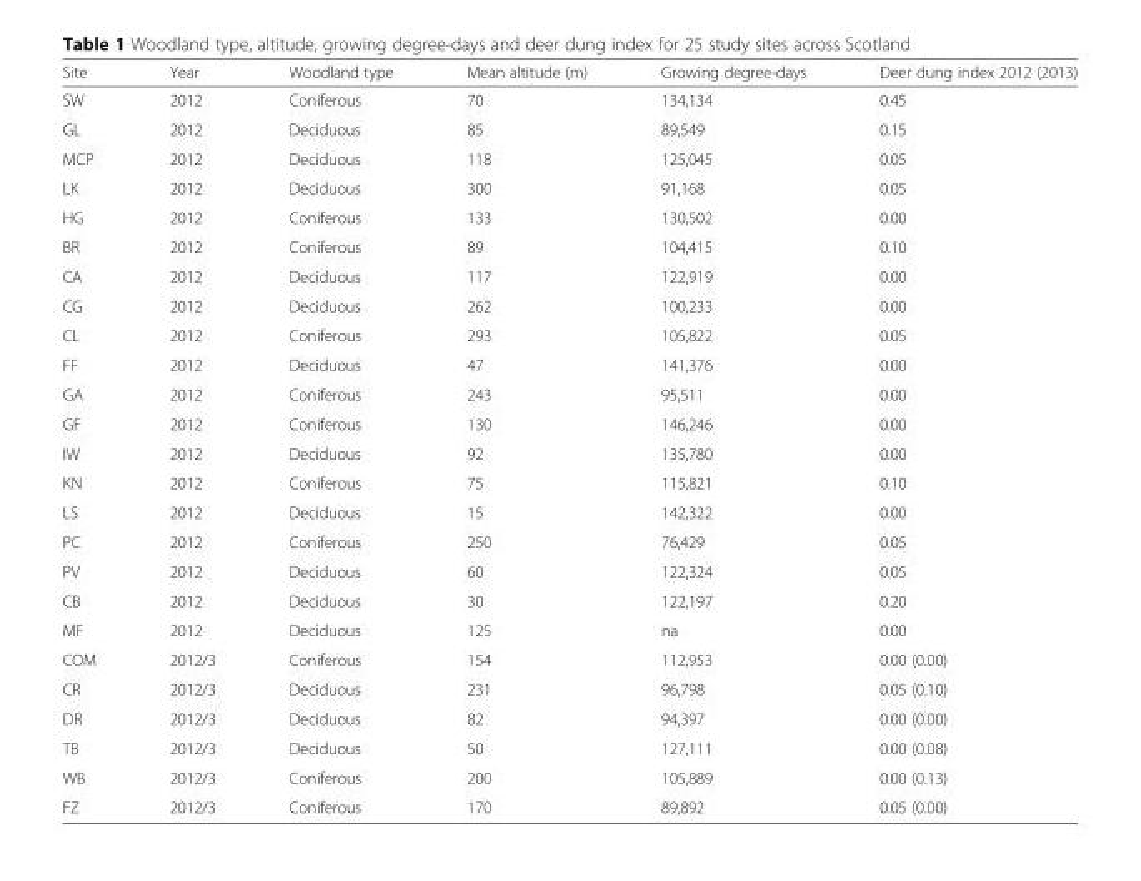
<table><thead><tr><td>Site</td><td>Year</td><td>Woodland type</td><td>Mean altitude (m)</td><td>Growing degree-days</td><td>Deer dung index 2012 (2013)</td></tr></thead><tbody><tr><td>SW</td><td>2012</td><td>Coniferous</td><td>70</td><td>134,134</td><td>0.45</td></tr><tr><td>GL</td><td>2012</td><td>Deciduous</td><td>85</td><td>89,549</td><td>0.15</td></tr><tr><td>MCP</td><td>2012</td><td>Deciduous</td><td>118</td><td>125,045</td><td>0.05</td></tr><tr><td>LK</td><td>2012</td><td>Deciduous</td><td>300</td><td>91,168</td><td>0.05</td></tr><tr><td>HG</td><td>2012</td><td>Coniferous</td><td>133</td><td>130,502</td><td>0.00</td></tr><tr><td>BR</td><td>2012</td><td>Coniferous</td><td>89</td><td>104,415</td><td>0.10</td></tr><tr><td>CA</td><td>2012</td><td>Deciduous</td><td>117</td><td>122,919</td><td>0.00</td></tr><tr><td>CG</td><td>2012</td><td>Deciduous</td><td>262</td><td>100,233</td><td>0.00</td></tr><tr><td>CL</td><td>2012</td><td>Coniferous</td><td>293</td><td>105,822</td><td>0.05</td></tr><tr><td>FF</td><td>2012</td><td>Deciduous</td><td>47</td><td>141,376</td><td>0.00</td></tr><tr><td>GA</td><td>2012</td><td>Coniferous</td><td>243</td><td>95,511</td><td>0.00</td></tr><tr><td>GF</td><td>2012</td><td>Coniferous</td><td>130</td><td>146,246</td><td>0.00</td></tr><tr><td>IW</td><td>2012</td><td>Deciduous</td><td>92</td><td>135,780</td><td>0.00</td></tr><tr><td>KN</td><td>2012</td><td>Coniferous</td><td>75</td><td>115,821</td><td>0.10</td></tr><tr><td>LS</td><td>2012</td><td>Deciduous</td><td>15</td><td>142,322</td><td>0.00</td></tr><tr><td>PC</td><td>2012</td><td>Coniferous</td><td>250</td><td>76,429</td><td>0.05</td></tr><tr><td>PV</td><td>2012</td><td>Deciduous</td><td>60</td><td>122,324</td><td>0.05</td></tr><tr><td>CB</td><td>2012</td><td>Deciduous</td><td>30</td><td>122,197</td><td>0.20</td></tr><tr><td>MF</td><td>2012</td><td>Deciduous</td><td>125</td><td>na</td><td>0.00</td></tr><tr><td>COM</td><td>2012/3</td><td>Coniferous</td><td>154</td><td>112,953</td><td>0.00 (0.00)</td></tr><tr><td>CR</td><td>2012/3</td><td>Deciduous</td><td>231</td><td>96,798</td><td>0.05 (0.10)</td></tr><tr><td>DR</td><td>2012/3</td><td>Deciduous</td><td>82</td><td>94,397</td><td>0.00 (0.00)</td></tr><tr><td>TB</td><td>2012/3</td><td>Deciduous</td><td>50</td><td>127,111</td><td>0.00 (0.08)</td></tr><tr><td>WB</td><td>2012/3</td><td>Coniferous</td><td>200</td><td>105,889</td><td>0.00 (0.13)</td></tr><tr><td>FZ</td><td>2012/3</td><td>Coniferous</td><td>170</td><td>89,892</td><td>0.05 (0.00)</td></tr></tbody></table>